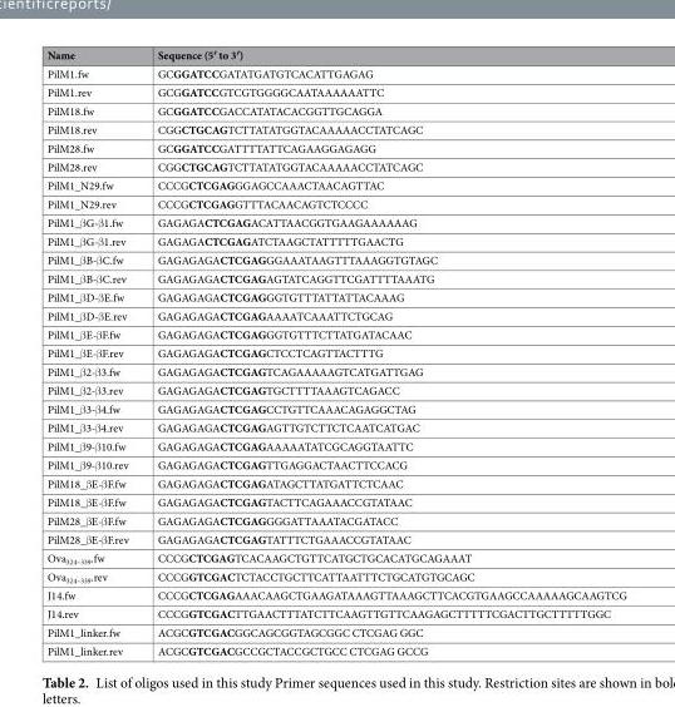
<table><thead><tr><td>Name</td><td>Sequence (5′ to 3′)</td></tr></thead><tbody><tr><td>PilM1.fw</td><td>GCGGATCCGATATGATGTCACATTGAGAG</td></tr><tr><td>PilM1.rev</td><td>GCGGATCCGTCGTGGGGCAATAAAAAATTC</td></tr><tr><td>PilM18.fw</td><td>GCGGATCCGACCATATACACGGTTGCAGGA</td></tr><tr><td>PilM18.rev</td><td>CGGCTGCAGTCTTATATGGTACAAAAACCTATCAGC</td></tr><tr><td>PilM28.fw</td><td>GCGGATCCGATTTTATTCAGAAGGAGAGG</td></tr><tr><td>PilM28.rev</td><td>CGGCTGCAGTCTTATATGGTACAAAAACCTATCAGC</td></tr><tr><td>PilM1_N29.fw</td><td>CCCGCTCGAGGGAGCCAAACTAACAGTTAC</td></tr><tr><td>PilM1_N29.rev</td><td>CCCGCTCGAGGTTTACAACAGTCTCCCC</td></tr><tr><td>PilM1_βG-β1.fw</td><td>GAGAGACTCGAGACATTAACGGTGAAGAAAAAAG</td></tr><tr><td>PilM1_βG-β1.rev</td><td>GAGAGACTCGAGATCTAAGCTATTTTTGAACTG</td></tr><tr><td>PilM1_βB-βC.fw</td><td>GAGAGAGACTCGAGGGAAATAAGTTTAAAGGTGTAGC</td></tr><tr><td>PilM1_βB-βC.rev</td><td>GAGAGAGACTCGAGAGTATCAGGTTCGATTTTAAATG</td></tr><tr><td>PilM1_βD-βE.fw</td><td>GAGAGAGACTCGAGGGTGTTTATTATTACAAAG</td></tr><tr><td>PilM1_βD-βE.rev</td><td>GAGAGAGACTCGAGAAAATCAAATTCTGCAG</td></tr><tr><td>PilM1_βE-βF.fw</td><td>GAGAGAGACTCGAGGGTGTTTCTTATGATACAAC</td></tr><tr><td>PilM1_βE-βF.rev</td><td>GAGAGAGACTCGAGCTCCTCAGTTACTTTG</td></tr><tr><td>PilM1_β2-β3.fw</td><td>GAGAGAGACTCGAGTCAGAAAAAGTCATGATTGAG</td></tr><tr><td>PilM1_β2-β3.rev</td><td>GAGAGAGACTCGAGTGCTTTTAAAGTCAGACC</td></tr><tr><td>PilM1_β3-β4.fw</td><td>GAGAGAGACTCGAGCCTGTTCAAACAGAGGCTAG</td></tr><tr><td>PilM1_β3-β4.rev</td><td>GAGAGAGACTCGAGAGTTGTCTTCTCAATCATGAC</td></tr><tr><td>PilM1_β9-β10.fw</td><td>GAGAGAGACTCGAGAAAAATATCGCAGGTAATTC</td></tr><tr><td>PilM1_β9-β10.rev</td><td>GAGAGAGACTCGAGTTGAGGACTAACTTCCACG</td></tr><tr><td>PilM18_βE-βF.fw</td><td>GAGAGAGACTCGAGATAGCTTATGATTCTCAAC</td></tr><tr><td>PilM18_βE-βF.fw</td><td>GAGAGAGACTCGAGTACTTCAGAAACCGTATAAC</td></tr><tr><td>PilM28_βE-βF.fw</td><td>GAGAGAGACTCGAGGGGATTAAATACGATACC</td></tr><tr><td>PilM28_βE-βF.rev</td><td>GAGAGAGACTCGAGTATTTCTGAAACCGTATAAC</td></tr><tr><td>Ova<sub>324–339</sub>.fw</td><td>CCCGCTCGAGTCACAAGCTGTTCATGCTGCACATGCAGAAAT</td></tr><tr><td>Ova<sub>324–339</sub>.rev</td><td>CCCGGTCGACTCTACCTGCTTCATTAATTTCTGCATGTGCAGC</td></tr><tr><td>J14.fw</td><td>CCCGCTCGAGAAACAAGCTGAAGATAAAGTTAAAGCTTCACGTGAAGCCAAAAAGCAAGTCG</td></tr><tr><td>J14.rev</td><td>CCCGGTCGACTTGAACTTTATCTTCAAGTTGTTCAAGAGCTTTTTCGACTTGCTTTTTGGC</td></tr><tr><td>PilM1_linker.fw</td><td>ACGCGTCGACGGCAGCGGTAGCGGC CTCGAG GGC</td></tr><tr><td>PilM1_linker.rev</td><td>ACGCGTCGACGCCGCTACCGCTGCC CTCGAG GCCG</td></tr></tbody></table>